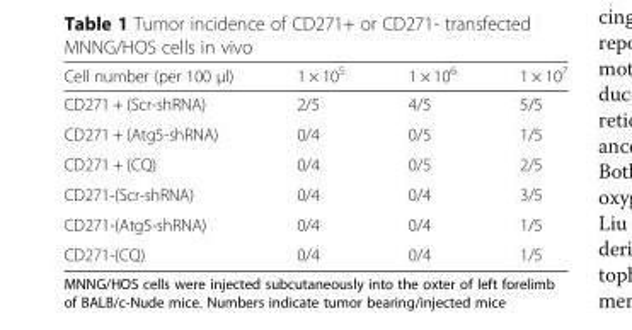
<table><thead><tr><td>Cell number (per 100 μl)</td><td>1 × 10<sup>5</sup></td><td>1 × 10<sup>6</sup></td><td>1 × 10<sup>7</sup></td></tr></thead><tbody><tr><td>CD271 + (Scr-shRNA)</td><td>2/5</td><td>4/5</td><td>5/5</td></tr><tr><td>CD271 + (Atg5-shRNA)</td><td>0/4</td><td>0/5</td><td>1/5</td></tr><tr><td>CD271 + (CQ)</td><td>0/4</td><td>0/5</td><td>2/5</td></tr><tr><td>CD271-(Scr-shRNA)</td><td>0/4</td><td>0/4</td><td>3/5</td></tr><tr><td>CD271-(Atg5-shRNA)</td><td>0/4</td><td>0/4</td><td>1/5</td></tr><tr><td>CD271-(CQ)</td><td>0/4</td><td>0/4</td><td>1/5</td></tr></tbody></table>